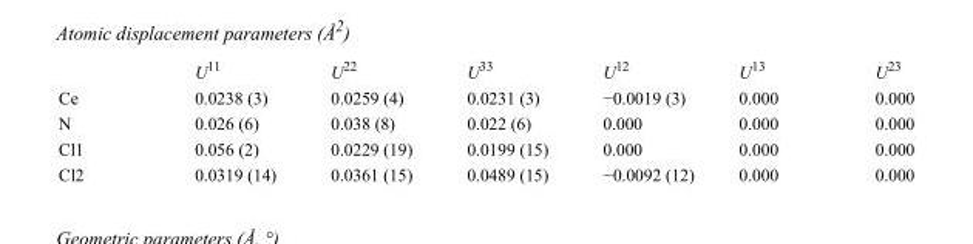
<table><thead><tr><td></td><td>U<sup>11</sup></td><td>U<sup>22</sup></td><td>U<sup>33</sup></td><td>U<sup>12</sup></td><td>U<sup>13</sup></td><td>U<sup>23</sup></td></tr></thead><tbody><tr><td>Ce</td><td>0.0238 (3)</td><td>0.0259 (4)</td><td>0.0231 (3)</td><td>−0.0019 (3)</td><td>0.000</td><td>0.000</td></tr><tr><td>N</td><td>0.026 (6)</td><td>0.038 (8)</td><td>0.022 (6)</td><td>0.000</td><td>0.000</td><td>0.000</td></tr><tr><td>Cl1</td><td>0.056 (2)</td><td>0.0229 (19)</td><td>0.0199 (15)</td><td>0.000</td><td>0.000</td><td>0.000</td></tr><tr><td>Cl2</td><td>0.0319 (14)</td><td>0.0361 (15)</td><td>0.0489 (15)</td><td>−0.0092 (12)</td><td>0.000</td><td>0.000</td></tr></tbody></table>